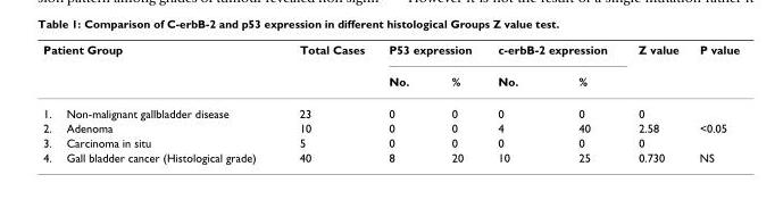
<table><thead><tr><td colspan="2">Patient Group</td><td rowspan="2">Total Cases</td><td colspan="2">P53 expression</td><td colspan="2">c-erbB-2 expression</td><td rowspan="2">Z value</td><td rowspan="2">P value</td></tr><tr><td></td><td></td><td>No.</td><td>%</td><td>No.</td><td>%</td></tr></thead><tbody><tr><td>1.</td><td>Non-malignant gallbladder disease</td><td>23</td><td>0</td><td>0</td><td>0</td><td>0</td><td>0</td><td></td></tr><tr><td>2.</td><td>Adenoma</td><td>10</td><td>0</td><td>0</td><td>4</td><td>40</td><td>2.58</td><td>&lt;0.05</td></tr><tr><td>3.</td><td>Carcinoma in situ</td><td>5</td><td>0</td><td>0</td><td>0</td><td>0</td><td>0</td><td></td></tr><tr><td>4.</td><td>Gall bladder cancer (Histological grade)</td><td>40</td><td>8</td><td>20</td><td>10</td><td>25</td><td>0.730</td><td>NS</td></tr></tbody></table>